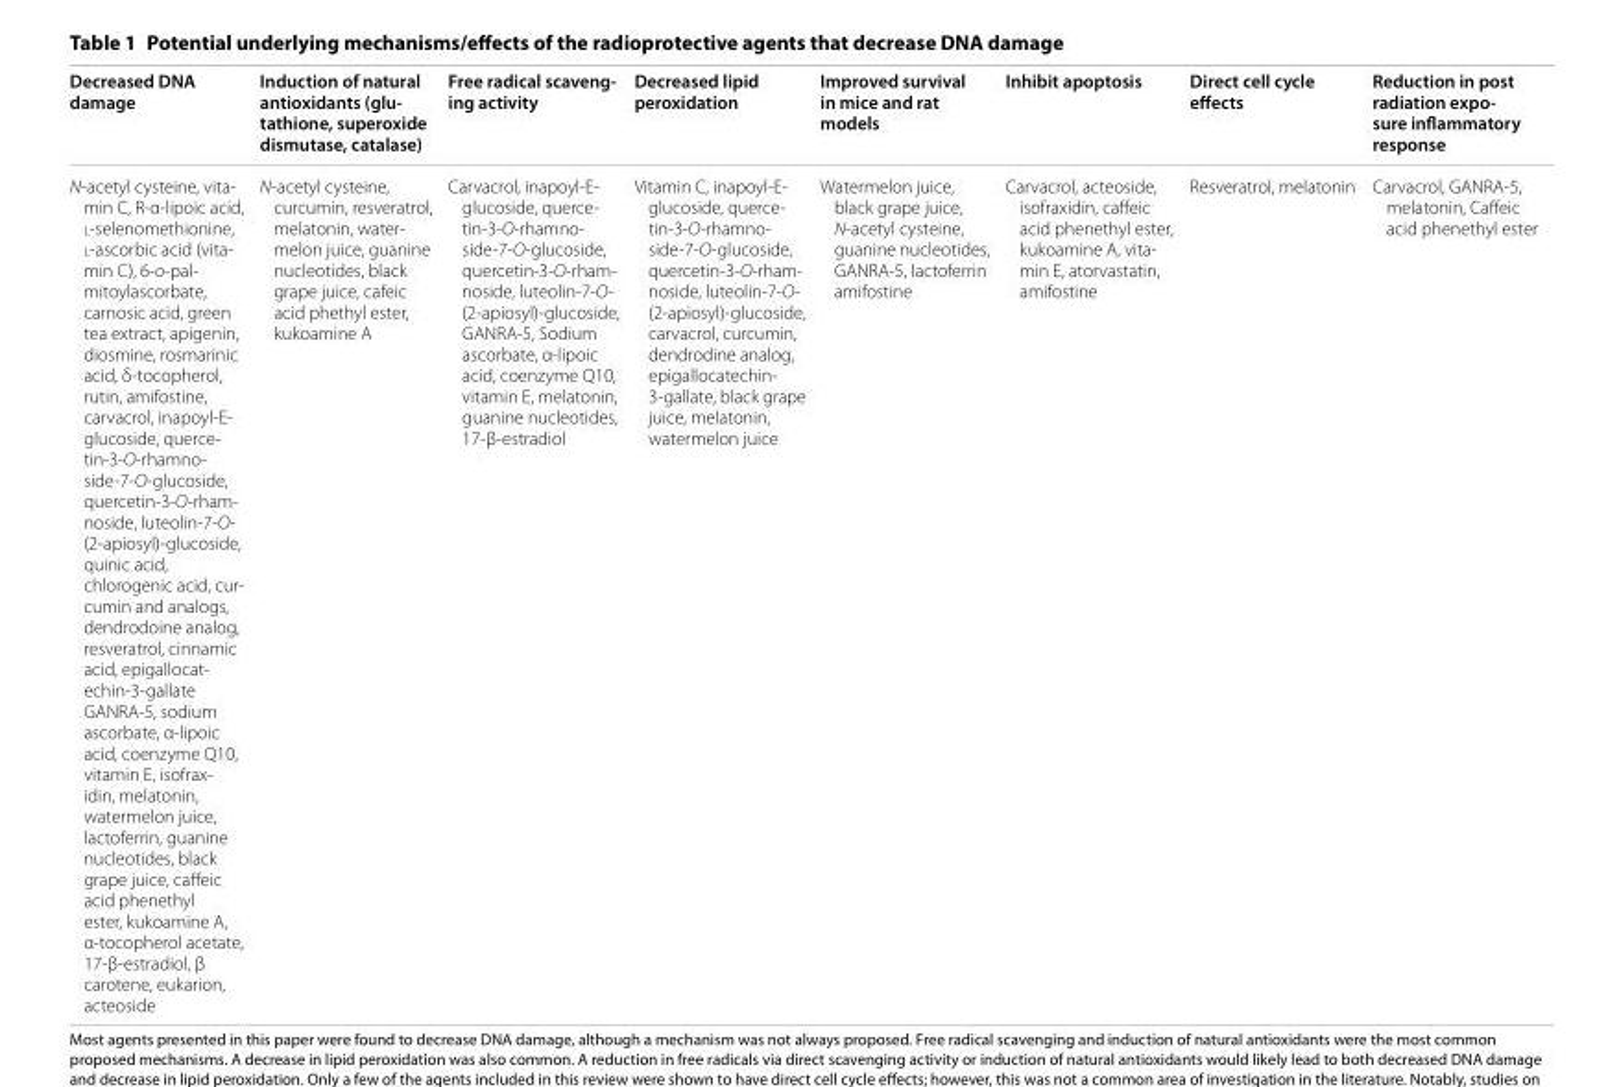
<table><thead><tr><td>Decreased DNA damage</td><td>Induction of natural antioxidants (glu- tathione, superoxide dismutase, catalase)</td><td>Free radical scaveng- ing activity</td><td>Decreased lipid peroxidation</td><td>Improved survival in mice and rat models</td><td>Inhibit apoptosis</td><td>Direct cell cycle effects</td><td>Reduction in post radiation expo- sure inflammatory response</td></tr></thead><tbody><tr><td>N-acetyl cysteine, vita- min C, R-α-lipoic acid, l-selenomethionine, l-ascorbic acid (vita- min C), 6-o-pal- mitoylascorbate, carnosic acid, green tea extract, apigenin, diosmine, rosmarinic acid, δ-tocopherol, rutin, amifostine, carvacrol, inapoyl-E- glucoside, querce- tin-3-O-rhamno- side-7-O-glucoside, quercetin-3-O-rham- noside, luteolin-7-O- (2-apiosyl)-glucoside, quinic acid, chlorogenic acid, cur- cumin and analogs, dendrodoine analog, resveratrol, cinnamic acid, epigallocat- echin-3-gallate GANRA-5, sodium ascorbate, α-lipoic acid, coenzyme Q10, vitamin E, isofrax- idin, melatonin, watermelon juice, lactoferrin, guanine nucleotides, black grape juice, caffeic acid phenethyl ester, kukoamine A, α-tocopherol acetate, 17-β-estradiol, β carotene, eukarion, acteoside</td><td>N-acetyl cysteine, curcumin, resveratrol, melatonin, water- melon juice, guanine nucleotides, black grape juice, cafeic acid phethyl ester, kukoamine A</td><td>Carvacrol, inapoyl-E- glucoside, querce- tin-3-O-rhamno- side-7-O-glucoside, quercetin-3-O-rham- noside, luteolin-7-O- (2-apiosyl)-glucoside, GANRA-5, Sodium ascorbate, α-lipoic acid, coenzyme Q10, vitamin E, melatonin, guanine nucleotides, 17-β-estradiol</td><td>Vitamin C, inapoyl-E- glucoside, querce- tin-3-O-rhamno- side-7-O-glucoside, quercetin-3-O-rham- noside, luteolin-7-O- (2-apiosyl)-glucoside, carvacrol, curcumin, dendrodine analog, epigallocatechin- 3-gallate, black grape juice, melatonin, watermelon juice</td><td>Watermelon juice, black grape juice, N-acetyl cysteine, guanine nucleotides, GANRA-5, lactoferrin amifostine</td><td>Carvacrol, acteoside, isofraxidin, caffeic acid phenethyl ester, kukoamine A, vita- min E, atorvastatin, amifostine</td><td>Resveratrol, melatonin</td><td>Carvacrol, GANRA-5, melatonin, Caffeic acid phenethyl ester</td></tr></tbody></table>